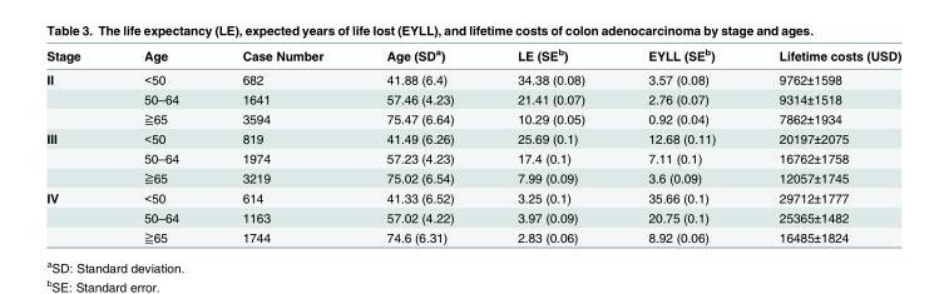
<table><thead><tr><td>Stage</td><td>Age</td><td>Case Number</td><td>Age (SD<sup>a</sup>)</td><td>LE (SE<sup>b</sup>)</td><td>EYLL (SE<sup>b</sup>)</td><td>Lifetime costs (USD)</td></tr></thead><tbody><tr><td rowspan="3">II</td><td>&lt;50</td><td>682</td><td>41.88 (6.4)</td><td>34.38 (0.08)</td><td>3.57 (0.08)</td><td>9762±1598</td></tr><tr><td>50–64</td><td>1641</td><td>57.46 (4.23)</td><td>21.41 (0.07)</td><td>2.76 (0.07)</td><td>9314±1518</td></tr><tr><td>≧65</td><td>3594</td><td>75.47 (6.64)</td><td>10.29 (0.05)</td><td>0.92 (0.04)</td><td>7862±1934</td></tr><tr><td rowspan="3">III</td><td>&lt;50</td><td>819</td><td>41.49 (6.26)</td><td>25.69 (0.1)</td><td>12.68 (0.11)</td><td>20197±2075</td></tr><tr><td>50–64</td><td>1974</td><td>57.23 (4.23)</td><td>17.4 (0.1)</td><td>7.11 (0.1)</td><td>16762±1758</td></tr><tr><td>≧65</td><td>3219</td><td>75.02 (6.54)</td><td>7.99 (0.09)</td><td>3.6 (0.09)</td><td>12057±1745</td></tr><tr><td rowspan="3">IV</td><td>&lt;50</td><td>614</td><td>41.33 (6.52)</td><td>3.25 (0.1)</td><td>35.66 (0.1)</td><td>29712±1777</td></tr><tr><td>50–64</td><td>1163</td><td>57.02 (4.22)</td><td>3.97 (0.09)</td><td>20.75 (0.1)</td><td>25365±1482</td></tr><tr><td>≧65</td><td>1744</td><td>74.6 (6.31)</td><td>2.83 (0.06)</td><td>8.92 (0.06)</td><td>16485±1824</td></tr></tbody></table>